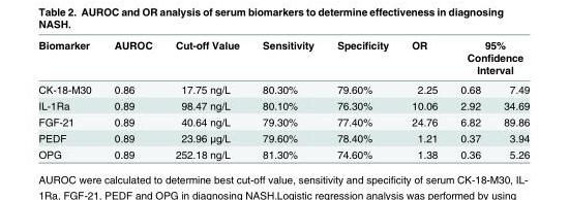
<table><thead><tr><td rowspan="2">Biomarker CK-18-M30</td><td rowspan="2">AUROC 0.86</td><td rowspan="2">Cut-off Value 17.75 ng/L</td><td rowspan="2">Sensitivity 80.30%</td><td rowspan="2">Specificity 79.60%</td><td rowspan="2">OR 2.25</td><td colspan="2">95% Confidence Interval</td></tr><tr><td>0.68</td><td>7.49</td></tr></thead><tbody><tr><td>IL-1Ra</td><td>0.89</td><td>98.47 ng/L</td><td>80.10%</td><td>76.30%</td><td>10.06</td><td>2.92</td><td>34.69</td></tr><tr><td>FGF-21</td><td>0.89</td><td>40.64 ng/L</td><td>79.30%</td><td>77.40%</td><td>24.76</td><td>6.82</td><td>89.86</td></tr><tr><td>PEDF</td><td>0.89</td><td>23.96 μg/L</td><td>79.60%</td><td>78.40%</td><td>1.21</td><td>0.37</td><td>3.94</td></tr><tr><td>OPG</td><td>0.89</td><td>252.18 ng/L</td><td>81.30%</td><td>74.60%</td><td>1.38</td><td>0.36</td><td>5.26</td></tr></tbody></table>